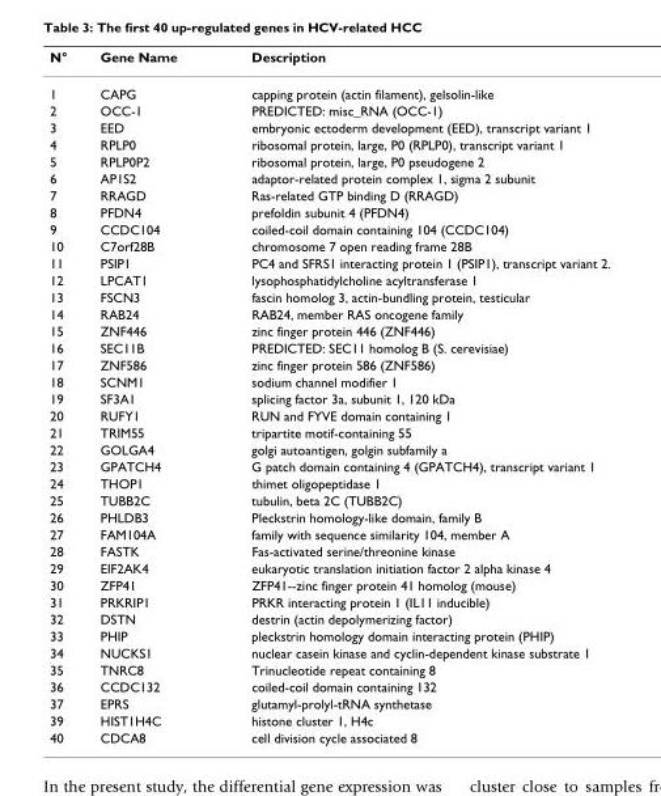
<table><thead><tr><td>N°</td><td>Gene Name</td><td>Description</td></tr></thead><tbody><tr><td>1</td><td>CAPG</td><td>capping protein (actin filament), gelsolin-like</td></tr><tr><td>2</td><td>OCC-1</td><td>PREDICTED: misc_RNA (OCC-1)</td></tr><tr><td>3</td><td>EED</td><td>embryonic ectoderm development (EED), transcript variant 1</td></tr><tr><td>4</td><td>RPLP0</td><td>ribosomal protein, large, P0 (RPLP0), transcript variant 1</td></tr><tr><td>5</td><td>RPLP0P2</td><td>ribosomal protein, large, P0 pseudogene 2</td></tr><tr><td>6</td><td>AP1S2</td><td>adaptor-related protein complex 1, sigma 2 subunit</td></tr><tr><td>7</td><td>RRAGD</td><td>Ras-related GTP binding D (RRAGD)</td></tr><tr><td>8</td><td>PFDN4</td><td>prefoldin subunit 4 (PFDN4)</td></tr><tr><td>9</td><td>CCDC104</td><td>coiled-coil domain containing 104 (CCDC104)</td></tr><tr><td>10</td><td>C7orf28B</td><td>chromosome 7 open reading frame 28B</td></tr><tr><td>11</td><td>PSIP1</td><td>PC4 and SFRS1 interacting protein 1 (PSIP1), transcript variant 2.</td></tr><tr><td>12</td><td>LPCAT1</td><td>lysophosphatidylcholine acyltransferase 1</td></tr><tr><td>13</td><td>FSCN3</td><td>fascin homolog 3, actin-bundling protein, testicular</td></tr><tr><td>14</td><td>RAB24</td><td>RAB24, member RAS oncogene family</td></tr><tr><td>15</td><td>ZNF446</td><td>zinc finger protein 446 (ZNF446)</td></tr><tr><td>16</td><td>SEC11B</td><td>PREDICTED: SEC11 homolog B (S. cerevisiae)</td></tr><tr><td>17</td><td>ZNF586</td><td>zinc finger protein 586 (ZNF586)</td></tr><tr><td>18</td><td>SCNM1</td><td>sodium channel modifier 1</td></tr><tr><td>19</td><td>SF3A1</td><td>splicing factor 3a, subunit 1, 120 kDa</td></tr><tr><td>20</td><td>RUFY1</td><td>RUN and FYVE domain containing 1</td></tr><tr><td>21</td><td>TRIM55</td><td>tripartite motif-containing 55</td></tr><tr><td>22</td><td>GOLGA4</td><td>golgi autoantigen, golgin subfamily a</td></tr><tr><td>23</td><td>GPATCH4</td><td>G patch domain containing 4 (GPATCH4), transcript variant 1</td></tr><tr><td>24</td><td>THOP1</td><td>thimet oligopeptidase 1</td></tr><tr><td>25</td><td>TUBB2C</td><td>tubulin, beta 2C (TUBB2C)</td></tr><tr><td>26</td><td>PHLDB3</td><td>Pleckstrin homology-like domain, family B</td></tr><tr><td>27</td><td>FAM104A</td><td>family with sequence similarity 104, member A</td></tr><tr><td>28</td><td>FASTK</td><td>Fas-activated serine/threonine kinase</td></tr><tr><td>29</td><td>EIF2AK4</td><td>eukaryotic translation initiation factor 2 alpha kinase 4</td></tr><tr><td>30</td><td>ZFP41</td><td>ZFP41--zinc finger protein 41 homolog (mouse)</td></tr><tr><td>31</td><td>PRKRIP1</td><td>PRKR interacting protein 1 (IL11 inducible)</td></tr><tr><td>32</td><td>DSTN</td><td>destrin (actin depolymerizing factor)</td></tr><tr><td>33</td><td>PHIP</td><td>pleckstrin homology domain interacting protein (PHIP)</td></tr><tr><td>34</td><td>NUCKS1</td><td>nuclear casein kinase and cyclin-dependent kinase substrate 1</td></tr><tr><td>35</td><td>TNRC8</td><td>Trinucleotide repeat containing 8</td></tr><tr><td>36</td><td>CCDC132</td><td>coiled-coil domain containing 132</td></tr><tr><td>37</td><td>EPRS</td><td>glutamyl-prolyl-tRNA synthetase</td></tr><tr><td>39</td><td>HIST1H4C</td><td>histone cluster 1, H4c</td></tr><tr><td>40</td><td>CDCA8</td><td>cell division cycle associated 8</td></tr></tbody></table>